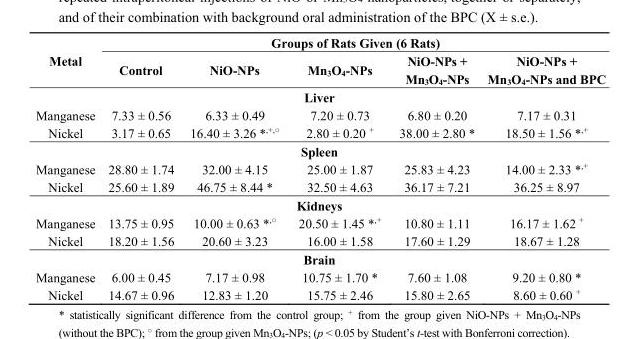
<table><thead><tr><td rowspan="2">Metal</td><td colspan="5">Groups of Rats Given (6 Rats)</td></tr><tr><td>Control</td><td>NiO-NPs</td><td>Mn<sub>3</sub>O<sub>4</sub>-NPs</td><td>NiO-NPs + Mn<sub>3</sub>O<sub>4</sub>-NPs</td><td>NiO-NPs + Mn<sub>3</sub>O<sub>4</sub>-NPs and BPC</td></tr></thead><tbody><tr><td colspan="6">Liver</td></tr><tr><td>Manganese</td><td>7.33 ± 0.56</td><td>6.33 ± 0.49</td><td>7.20 ± 0.73</td><td>6.80 ± 0.20</td><td>7.17 ± 0.31</td></tr><tr><td>Nickel</td><td>3.17 ± 0.65</td><td>16.40 ± 3.26 *<sup>,+,○</sup></td><td>2.80 ± 0.20 <sup>+</sup></td><td>38.00 ± 2.80 *</td><td>18.50 ± 1.56 *<sup>,+</sup></td></tr><tr><td colspan="6">Spleen</td></tr><tr><td>Manganese</td><td>28.80 ± 1.74</td><td>32.00 ± 4.15</td><td>25.00 ± 1.87</td><td>25.83 ± 4.23</td><td>14.00 ± 2.33 *<sup>,+</sup></td></tr><tr><td>Nickel</td><td>25.60 ± 1.89</td><td>46.75 ± 8.44 *</td><td>32.50 ± 4.63</td><td>36.17 ± 7.21</td><td>36.25 ± 8.97</td></tr><tr><td colspan="6">Kidneys</td></tr><tr><td>Manganese</td><td>13.75 ± 0.95</td><td>10.00 ± 0.63 *<sup>,○</sup></td><td>20.50 ± 1.45 *<sup>,+</sup></td><td>10.80 ± 1.11</td><td>16.17 ± 1.62 <sup>+</sup></td></tr><tr><td>Nickel</td><td>18.20 ± 1.56</td><td>20.60 ± 3.23</td><td>16.00 ± 1.58</td><td>17.60 ± 1.29</td><td>18.67 ± 1.28</td></tr><tr><td colspan="6">Brain</td></tr><tr><td>Manganese</td><td>6.00 ± 0.45</td><td>7.17 ± 0.98</td><td>10.75 ± 1.70 *</td><td>7.60 ± 1.08</td><td>9.20 ± 0.80 *</td></tr><tr><td>Nickel</td><td>14.67 ± 0.96</td><td>12.83 ± 1.20</td><td>15.75 ± 2.46</td><td>15.80 ± 2.65</td><td>8.60 ± 0.60 <sup>+</sup></td></tr></tbody></table>